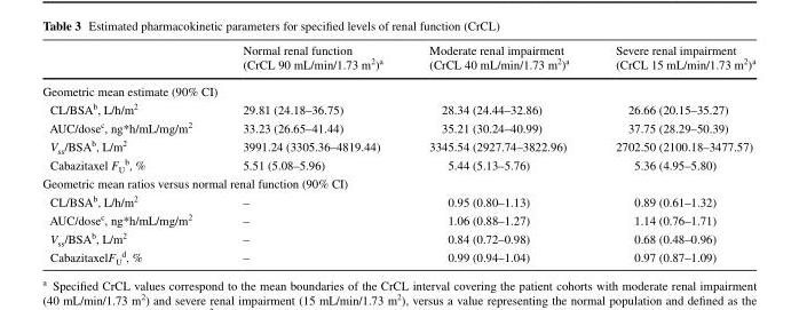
<table><thead><tr><td></td><td>Normal renal function (CrCL 90 mL/min/1.73 m<sup>2</sup>)<sup>a</sup></td><td>Moderate renal impairment (CrCL 40 mL/min/1.73 m<sup>2</sup>)<sup>a</sup></td><td>Severe renal impairment (CrCL 15 mL/min/1.73 m<sup>2</sup>)<sup>a</sup></td></tr></thead><tbody><tr><td colspan="4">Geometric mean estimate (90% CI)</td></tr><tr><td>CL/BSA<sup>b</sup>, L/h/m<sup>2</sup></td><td>29.81 (24.18–36.75)</td><td>28.34 (24.44–32.86)</td><td>26.66 (20.15–35.27)</td></tr><tr><td>AUC/dose<sup>c</sup>, ng*h/mL/mg/m<sup>2</sup></td><td>33.23 (26.65–41.44)</td><td>35.21 (30.24–40.99)</td><td>37.75 (28.29–50.39)</td></tr><tr><td>V<sub>ss</sub>/BSA<sup>b</sup>, L/m<sup>2</sup></td><td>3991.24 (3305.36–4819.44)</td><td>3345.54 (2927.74–3822.96)</td><td>2702.50 (2100.18–3477.57)</td></tr><tr><td>Cabazitaxel F<sub>U</sub> <sup>b</sup>, %</td><td>5.51 (5.08–5.96)</td><td>5.44 (5.13–5.76)</td><td>5.36 (4.95–5.80)</td></tr><tr><td colspan="4">Geometric mean ratios versus normal renal function (90% CI)</td></tr><tr><td>CL/BSA<sup>b</sup>, L/h/m<sup>2</sup></td><td>–</td><td>0.95 (0.80–1.13)</td><td>0.89 (0.61–1.32)</td></tr><tr><td>AUC/dose<sup>c</sup>, ng*h/mL/mg/m<sup>2</sup></td><td>–</td><td>1.06 (0.88–1.27)</td><td>1.14 (0.76–1.71)</td></tr><tr><td>V<sub>ss</sub>/BSA<sup>b</sup>, L/m<sup>2</sup></td><td>–</td><td>0.84 (0.72–0.98)</td><td>0.68 (0.48–0.96)</td></tr><tr><td>CabazitaxelF<sub>U</sub> <sup>d</sup>, %</td><td>–</td><td>0.99 (0.94–1.04)</td><td>0.97 (0.87–1.09)</td></tr></tbody></table>